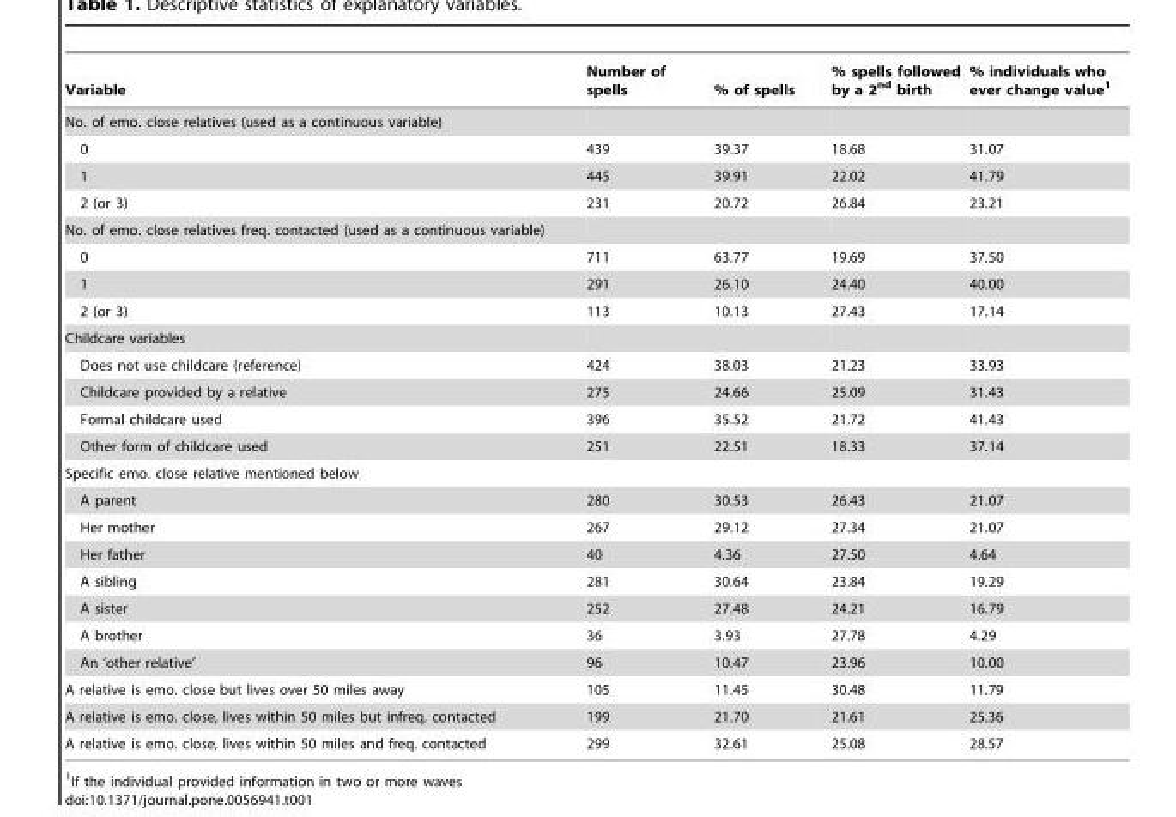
<table><thead><tr><td>Variable</td><td>Number of spells</td><td>% of spells</td><td>% spells followed by a 2<sup>nd</sup> birth</td><td>% individuals who ever change value<sup>1</sup></td></tr></thead><tbody><tr><td colspan="5">No. of emo. close relatives (used as a continuous variable)</td></tr><tr><td>0</td><td>439</td><td>39.37</td><td>18.68</td><td>31.07</td></tr><tr><td>1</td><td>445</td><td>39.91</td><td>22.02</td><td>41.79</td></tr><tr><td>2 (or 3)</td><td>231</td><td>20.72</td><td>26.84</td><td>23.21</td></tr><tr><td colspan="5">No. of emo. close relatives freq. contacted (used as a continuous variable)</td></tr><tr><td>0</td><td>711</td><td>63.77</td><td>19.69</td><td>37.50</td></tr><tr><td>1</td><td>291</td><td>26.10</td><td>24.40</td><td>40.00</td></tr><tr><td>2 (or 3)</td><td>113</td><td>10.13</td><td>27.43</td><td>17.14</td></tr><tr><td colspan="5">Childcare variables</td></tr><tr><td>Does not use childcare (reference)</td><td>424</td><td>38.03</td><td>21.23</td><td>33.93</td></tr><tr><td>Childcare provided by a relative</td><td>275</td><td>24.66</td><td>25.09</td><td>31.43</td></tr><tr><td>Formal childcare used</td><td>396</td><td>35.52</td><td>21.72</td><td>41.43</td></tr><tr><td>Other form of childcare used</td><td>251</td><td>22.51</td><td>18.33</td><td>37.14</td></tr><tr><td colspan="5">Specific emo. close relative mentioned below</td></tr><tr><td>A parent</td><td>280</td><td>30.53</td><td>26.43</td><td>21.07</td></tr><tr><td>Her mother</td><td>267</td><td>29.12</td><td>27.34</td><td>21.07</td></tr><tr><td>Her father</td><td>40</td><td>4.36</td><td>27.50</td><td>4.64</td></tr><tr><td>A sibling</td><td>281</td><td>30.64</td><td>23.84</td><td>19.29</td></tr><tr><td>A sister</td><td>252</td><td>27.48</td><td>24.21</td><td>16.79</td></tr><tr><td>A brother</td><td>36</td><td>3.93</td><td>27.78</td><td>4.29</td></tr><tr><td>An ‘other relative’</td><td>96</td><td>10.47</td><td>23.96</td><td>10.00</td></tr><tr><td>A relative is emo. close but lives over 50 miles away</td><td>105</td><td>11.45</td><td>30.48</td><td>11.79</td></tr><tr><td>A relative is emo. close, lives within 50 miles but infreq. contacted</td><td>199</td><td>21.70</td><td>21.61</td><td>25.36</td></tr><tr><td>A relative is emo. close, lives within 50 miles and freq. contacted</td><td>299</td><td>32.61</td><td>25.08</td><td>28.57</td></tr></tbody></table>